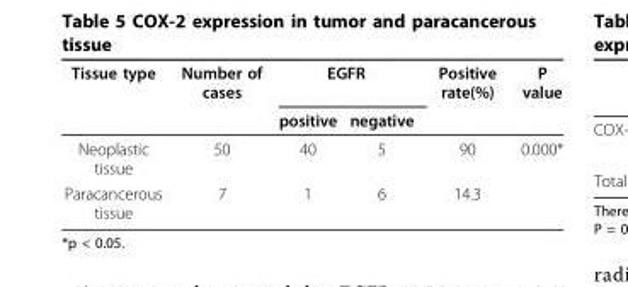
<table><thead><tr><td rowspan="2">Tissue type</td><td rowspan="2">Number of cases</td><td colspan="2">EGFR</td><td rowspan="2">Positive rate(%)</td><td rowspan="2">P value</td></tr><tr><td>positive</td><td>negative</td></tr></thead><tbody><tr><td>Neoplastic tissue</td><td>50</td><td>40</td><td>5</td><td>90</td><td>0.000*</td></tr><tr><td>Paracancerous tissue</td><td>7</td><td>1</td><td>6</td><td>14.3</td><td></td></tr></tbody></table>